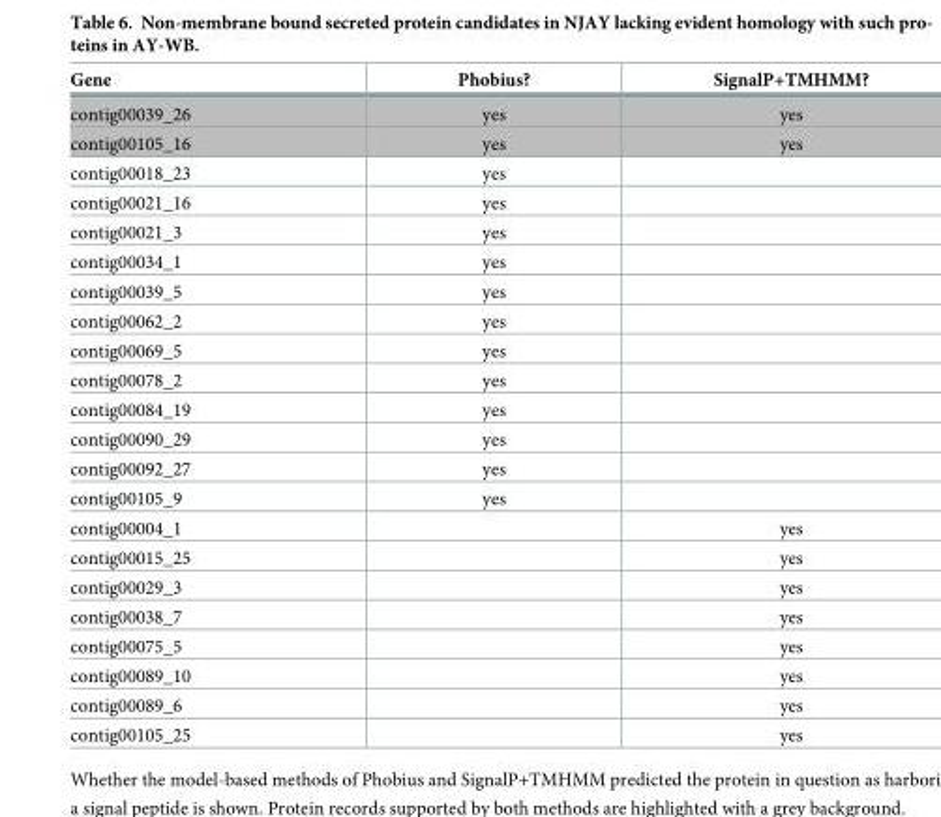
<table><thead><tr><td>Gene</td><td>Phobius?</td><td>SignalP+TMHMM?</td></tr></thead><tbody><tr><td>contig00039_26</td><td>yes</td><td>yes</td></tr><tr><td>contig00105_16</td><td>yes</td><td>yes</td></tr><tr><td>contig00018_23</td><td>yes</td><td></td></tr><tr><td>contig00021_16</td><td>yes</td><td></td></tr><tr><td>contig00021_3</td><td>yes</td><td></td></tr><tr><td>contig00034_1</td><td>yes</td><td></td></tr><tr><td>contig00039_5</td><td>yes</td><td></td></tr><tr><td>contig00062_2</td><td>yes</td><td></td></tr><tr><td>contig00069_5</td><td>yes</td><td></td></tr><tr><td>contig00078_2</td><td>yes</td><td></td></tr><tr><td>contig00084_19</td><td>yes</td><td></td></tr><tr><td>contig00090_29</td><td>yes</td><td></td></tr><tr><td>contig00092_27</td><td>yes</td><td></td></tr><tr><td>contig00105_9</td><td>yes</td><td></td></tr><tr><td>contig00004_1</td><td></td><td>yes</td></tr><tr><td>contig00015_25</td><td></td><td>yes</td></tr><tr><td>contig00029_3</td><td></td><td>yes</td></tr><tr><td>contig00038_7</td><td></td><td>yes</td></tr><tr><td>contig00075_5</td><td></td><td>yes</td></tr><tr><td>contig00089_10</td><td></td><td>yes</td></tr><tr><td>contig00089_6</td><td></td><td>yes</td></tr><tr><td>contig00105_25</td><td></td><td>yes</td></tr></tbody></table>